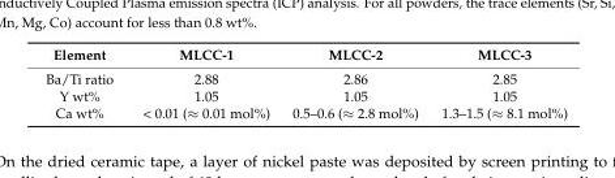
<table><thead><tr><td>Element</td><td>MLCC-1</td><td>MLCC-2</td><td>MLCC-3</td></tr></thead><tbody><tr><td>Ba/Ti ratio</td><td>2.88</td><td>2.86</td><td>2.85</td></tr><tr><td>Y wt%</td><td>1.05</td><td>1.05</td><td>1.05</td></tr><tr><td>Ca wt%</td><td>&lt; 0.01 (≈ 0.01 mol%)</td><td>0.5–0.6 (≈ 2.8 mol%)</td><td>1.3–1.5 (≈ 8.1 mol%)</td></tr></tbody></table>